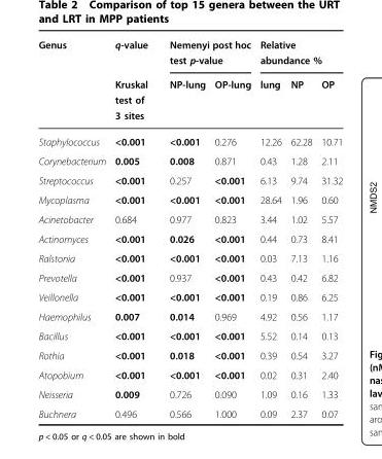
<table><thead><tr><td rowspan="2">Genus</td><td rowspan="2">q-value Kruskal test of 3 sites</td><td colspan="2">Nemenyi post hoc test p-value</td><td colspan="3">Relative abundance %</td></tr><tr><td>NP-lung</td><td>OP-lung</td><td>lung</td><td>NP</td><td>OP</td></tr></thead><tbody><tr><td>Staphylococcus</td><td>&lt;0.001</td><td>&lt;0.001</td><td>0.276</td><td>12.26</td><td>62.28</td><td>10.71</td></tr><tr><td>Corynebacterium</td><td>0.005</td><td>0.008</td><td>0.871</td><td>0.43</td><td>1.28</td><td>2.11</td></tr><tr><td>Streptococcus</td><td>&lt;0.001</td><td>0.257</td><td>&lt;0.001</td><td>6.13</td><td>9.74</td><td>31.32</td></tr><tr><td>Mycoplasma</td><td>&lt;0.001</td><td>&lt;0.001</td><td>&lt;0.001</td><td>28.64</td><td>1.96</td><td>0.60</td></tr><tr><td>Acinetobacter</td><td>0.684</td><td>0.977</td><td>0.823</td><td>3.44</td><td>1.02</td><td>5.57</td></tr><tr><td>Actinomyces</td><td>&lt;0.001</td><td>0.026</td><td>&lt;0.001</td><td>0.44</td><td>0.73</td><td>8.41</td></tr><tr><td>Ralstonia</td><td>&lt;0.001</td><td>&lt;0.001</td><td>&lt;0.001</td><td>0.03</td><td>7.13</td><td>1.16</td></tr><tr><td>Prevotella</td><td>&lt;0.001</td><td>0.937</td><td>&lt;0.001</td><td>0.43</td><td>0.42</td><td>6.82</td></tr><tr><td>Veillonella</td><td>&lt;0.001</td><td>&lt;0.001</td><td>&lt;0.001</td><td>0.19</td><td>0.86</td><td>6.25</td></tr><tr><td>Haemophilus</td><td>0.007</td><td>0.014</td><td>0.969</td><td>4.92</td><td>0.56</td><td>1.17</td></tr><tr><td>Bacillus</td><td>&lt;0.001</td><td>&lt;0.001</td><td>&lt;0.001</td><td>5.52</td><td>0.14</td><td>0.13</td></tr><tr><td>Rothia</td><td>&lt;0.001</td><td>0.018</td><td>&lt;0.001</td><td>0.39</td><td>0.54</td><td>3.27</td></tr><tr><td>Atopobium</td><td>&lt;0.001</td><td>&lt;0.001</td><td>&lt;0.001</td><td>0.02</td><td>0.31</td><td>2.40</td></tr><tr><td>Neisseria</td><td>0.009</td><td>0.726</td><td>0.090</td><td>1.09</td><td>0.16</td><td>1.33</td></tr><tr><td>Buchnera</td><td>0.496</td><td>0.566</td><td>1.000</td><td>0.09</td><td>2.37</td><td>0.07</td></tr></tbody></table>